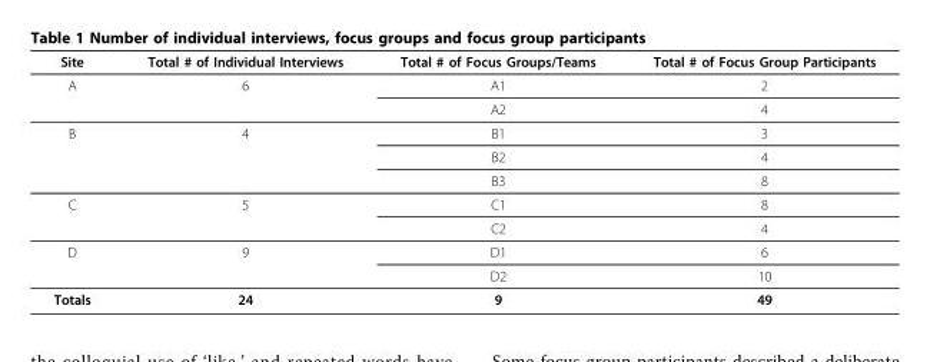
<table><thead><tr><td>Site</td><td>Total # of Individual Interviews</td><td>Total # of Focus Groups/Teams</td><td>Total # of Focus Group Participants</td></tr></thead><tbody><tr><td rowspan="2">A</td><td>6</td><td>A1</td><td>2</td></tr><tr><td></td><td>A2</td><td>4</td></tr><tr><td rowspan="3">B</td><td>4</td><td>B1</td><td>3</td></tr><tr><td></td><td>B2</td><td>4</td></tr><tr><td></td><td>B3</td><td>8</td></tr><tr><td rowspan="2">C</td><td>5</td><td>C1</td><td>8</td></tr><tr><td></td><td>C2</td><td>4</td></tr><tr><td rowspan="2">D</td><td>9</td><td>D1</td><td>6</td></tr><tr><td></td><td>D2</td><td>10</td></tr><tr><td>Totals</td><td>24</td><td>9</td><td>49</td></tr></tbody></table>